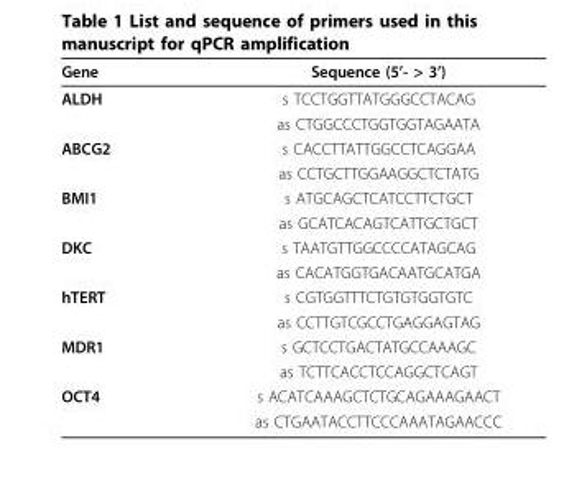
<table><thead><tr><td>Gene</td><td>Sequence (5’- &gt; 3’)</td></tr></thead><tbody><tr><td rowspan="2">ALDH</td><td>s TCCTGGTTATGGGCCTACAG</td></tr><tr><td>as CTGGCCCTGGTGGTAGAATA</td></tr><tr><td rowspan="2">ABCG2</td><td>s CACCTTATTGGCCTCAGGAA</td></tr><tr><td>as CCTGCTTGGAAGGCTCTATG</td></tr><tr><td rowspan="2">BMI1</td><td>s ATGCAGCTCATCCTTCTGCT</td></tr><tr><td>as GCATCACAGTCATTGCTGCT</td></tr><tr><td rowspan="2">DKC</td><td>s TAATGTTGGCCCCATAGCAG</td></tr><tr><td>as CACATGGTGACAATGCATGA</td></tr><tr><td rowspan="2">hTERT</td><td>s CGTGGTTTCTGTGTGGTGTC</td></tr><tr><td>as CCTTGTCGCCTGAGGAGTAG</td></tr><tr><td rowspan="2">MDR1</td><td>s GCTCCTGACTATGCCAAAGC</td></tr><tr><td>as TCTTCACCTCCAGGCTCAGT</td></tr><tr><td rowspan="2">OCT4</td><td>s ACATCAAAGCTCTGCAGAAAGAACT</td></tr><tr><td>as CTGAATACCTTCCCAAATAGAACCC</td></tr></tbody></table>